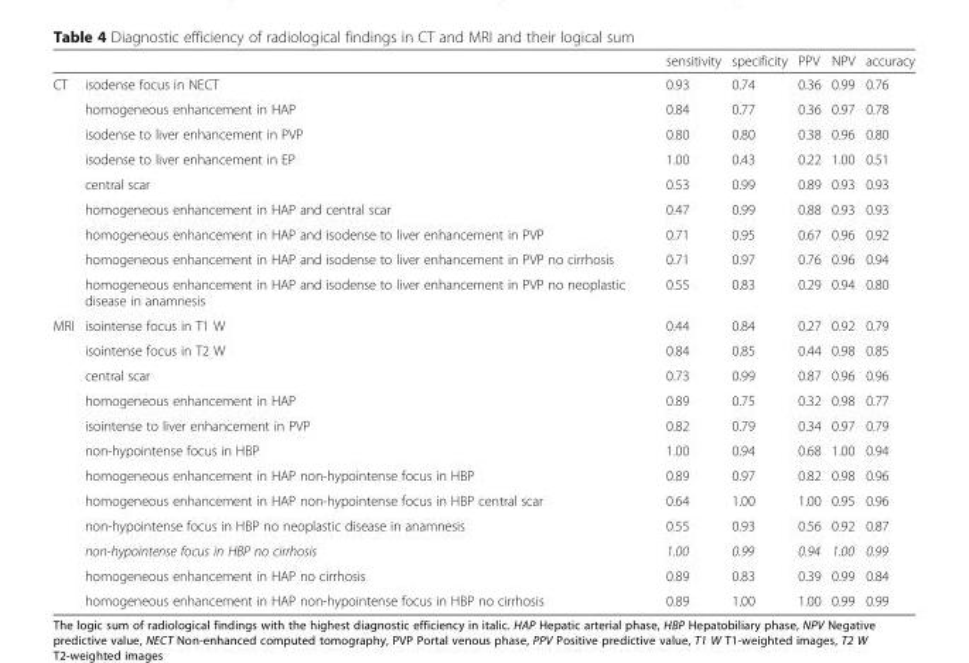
<table><thead><tr><td></td><td></td><td>sensitivity</td><td>specificity</td><td>PPV</td><td>NPV</td><td>accuracy</td></tr></thead><tbody><tr><td rowspan="9">CT</td><td>isodense focus in NECT</td><td>0.93</td><td>0.74</td><td>0.36</td><td>0.99</td><td>0.76</td></tr><tr><td>homogeneous enhancement in HAP</td><td>0.84</td><td>0.77</td><td>0.36</td><td>0.97</td><td>0.78</td></tr><tr><td>isodense to liver enhancement in PVP</td><td>0.80</td><td>0.80</td><td>0.38</td><td>0.96</td><td>0.80</td></tr><tr><td>isodense to liver enhancement in EP</td><td>1.00</td><td>0.43</td><td>0.22</td><td>1.00</td><td>0.51</td></tr><tr><td>central scar</td><td>0.53</td><td>0.99</td><td>0.89</td><td>0.93</td><td>0.93</td></tr><tr><td>homogeneous enhancement in HAP and central scar</td><td>0.47</td><td>0.99</td><td>0.88</td><td>0.93</td><td>0.93</td></tr><tr><td>homogeneous enhancement in HAP and isodense to liver enhancement in PVP</td><td>0.71</td><td>0.95</td><td>0.67</td><td>0.96</td><td>0.92</td></tr><tr><td>homogeneous enhancement in HAP and isodense to liver enhancement in PVP no cirrhosis</td><td>0.71</td><td>0.97</td><td>0.76</td><td>0.96</td><td>0.94</td></tr><tr><td>homogeneous enhancement in HAP and isodense to liver enhancement in PVP no neoplastic disease in anamnesis</td><td>0.55</td><td>0.83</td><td>0.29</td><td>0.94</td><td>0.80</td></tr><tr><td rowspan="12">MRI</td><td>isointense focus in T1 W</td><td>0.44</td><td>0.84</td><td>0.27</td><td>0.92</td><td>0.79</td></tr><tr><td>isointense focus in T2 W</td><td>0.84</td><td>0.85</td><td>0.44</td><td>0.98</td><td>0.85</td></tr><tr><td>central scar</td><td>0.73</td><td>0.99</td><td>0.87</td><td>0.96</td><td>0.96</td></tr><tr><td>homogeneous enhancement in HAP</td><td>0.89</td><td>0.75</td><td>0.32</td><td>0.98</td><td>0.77</td></tr><tr><td>isointense to liver enhancement in PVP</td><td>0.82</td><td>0.79</td><td>0.34</td><td>0.97</td><td>0.79</td></tr><tr><td>non-hypointense focus in HBP</td><td>1.00</td><td>0.94</td><td>0.68</td><td>1.00</td><td>0.94</td></tr><tr><td>homogeneous enhancement in HAP non-hypointense focus in HBP</td><td>0.89</td><td>0.97</td><td>0.82</td><td>0.98</td><td>0.96</td></tr><tr><td>homogeneous enhancement in HAP non-hypointense focus in HBP central scar</td><td>0.64</td><td>1.00</td><td>1.00</td><td>0.95</td><td>0.96</td></tr><tr><td>non-hypointense focus in HBP no neoplastic disease in anamnesis</td><td>0.55</td><td>0.93</td><td>0.56</td><td>0.92</td><td>0.87</td></tr><tr><td>non-hypointense focus in HBP no cirrhosis</td><td>1.00</td><td>0.99</td><td>0.94</td><td>1.00</td><td>0.99</td></tr><tr><td>homogeneous enhancement in HAP no cirrhosis</td><td>0.89</td><td>0.83</td><td>0.39</td><td>0.99</td><td>0.84</td></tr><tr><td>homogeneous enhancement in HAP non-hypointense focus in HBP no cirrhosis</td><td>0.89</td><td>1.00</td><td>1.00</td><td>0.99</td><td>0.99</td></tr></tbody></table>